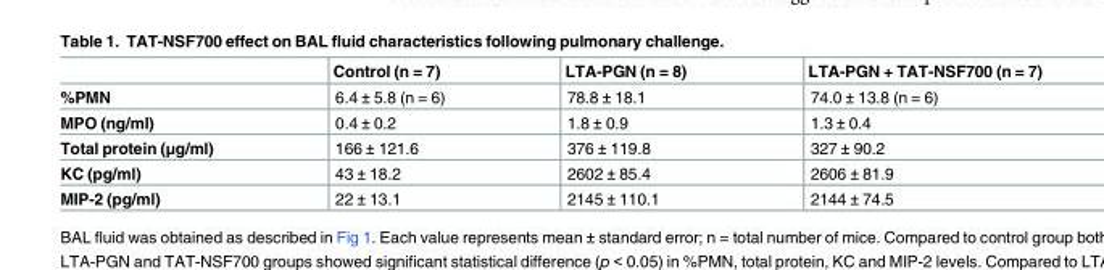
<table><thead><tr><td></td><td>Control (n = 7)</td><td>LTA-PGN (n = 8)</td><td>LTA-PGN + TAT-NSF700 (n = 7)</td></tr></thead><tbody><tr><td>%PMN</td><td>6.4 ± 5.8 (n = 6)</td><td>78.8 ± 18.1</td><td>74.0 ± 13.8 (n = 6)</td></tr><tr><td>MPO (ng/ml)</td><td>0.4 ± 0.2</td><td>1.8 ± 0.9</td><td>1.3 ± 0.4</td></tr><tr><td>Total protein (μg/ml)</td><td>166 ± 121.6</td><td>376 ± 119.8</td><td>327 ± 90.2</td></tr><tr><td>KC (pg/ml)</td><td>43 ± 18.2</td><td>2602 ± 85.4</td><td>2606 ± 81.9</td></tr><tr><td>MIP-2 (pg/ml)</td><td>22 ± 13.1</td><td>2145 ± 110.1</td><td>2144 ± 74.5</td></tr></tbody></table>